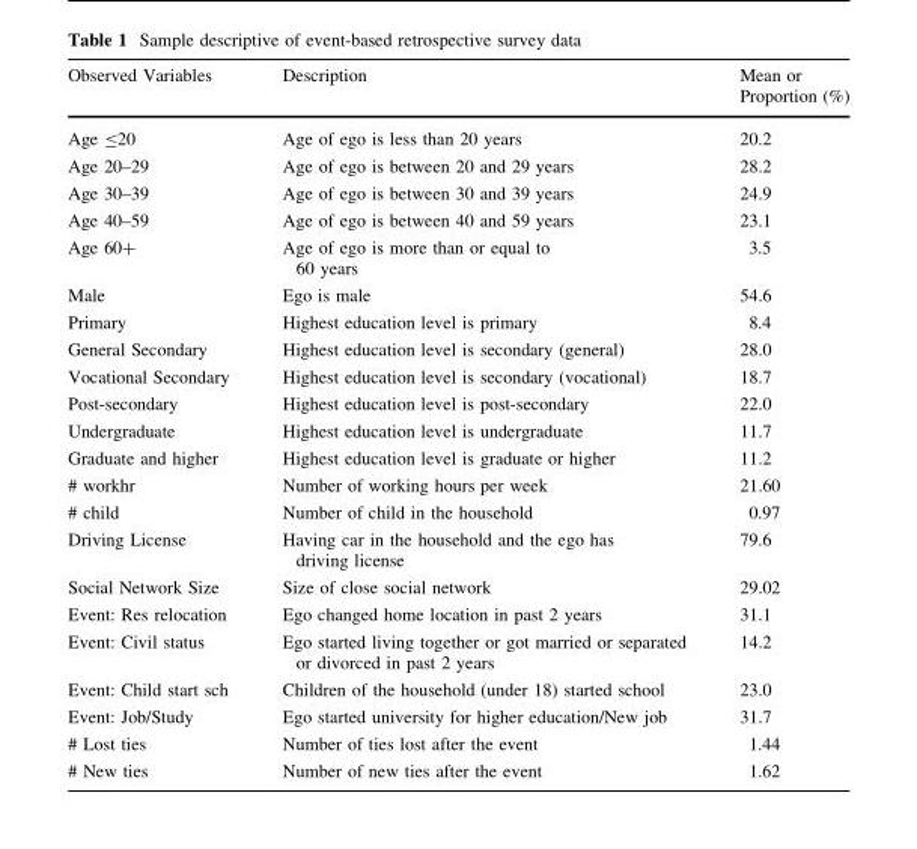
<table><thead><tr><td>Observed Variables</td><td>Description</td><td>Mean or Proportion (%)</td></tr></thead><tbody><tr><td>Age ≤20</td><td>Age of ego is less than 20 years</td><td>20.2</td></tr><tr><td>Age 20–29</td><td>Age of ego is between 20 and 29 years</td><td>28.2</td></tr><tr><td>Age 30–39</td><td>Age of ego is between 30 and 39 years</td><td>24.9</td></tr><tr><td>Age 40–59</td><td>Age of ego is between 40 and 59 years</td><td>23.1</td></tr><tr><td>Age 60+</td><td>Age of ego is more than or equal to 60 years</td><td>3.5</td></tr><tr><td>Male</td><td>Ego is male</td><td>54.6</td></tr><tr><td>Primary</td><td>Highest education level is primary</td><td>8.4</td></tr><tr><td>General Secondary</td><td>Highest education level is secondary (general)</td><td>28.0</td></tr><tr><td>Vocational Secondary</td><td>Highest education level is secondary (vocational)</td><td>18.7</td></tr><tr><td>Post-secondary</td><td>Highest education level is post-secondary</td><td>22.0</td></tr><tr><td>Undergraduate</td><td>Highest education level is undergraduate</td><td>11.7</td></tr><tr><td>Graduate and higher</td><td>Highest education level is graduate or higher</td><td>11.2</td></tr><tr><td># workhr</td><td>Number of working hours per week</td><td>21.60</td></tr><tr><td># child</td><td>Number of child in the household</td><td>0.97</td></tr><tr><td>Driving License</td><td>Having car in the household and the ego has driving license</td><td>79.6</td></tr><tr><td>Social Network Size</td><td>Size of close social network</td><td>29.02</td></tr><tr><td>Event: Res relocation</td><td>Ego changed home location in past 2 years</td><td>31.1</td></tr><tr><td>Event: Civil status</td><td>Ego started living together or got married or separated or divorced in past 2 years</td><td>14.2</td></tr><tr><td>Event: Child start sch</td><td>Children of the household (under 18) started school</td><td>23.0</td></tr><tr><td>Event: Job/Study</td><td>Ego started university for higher education/New job</td><td>31.7</td></tr><tr><td># Lost ties</td><td>Number of ties lost after the event</td><td>1.44</td></tr><tr><td># New ties</td><td>Number of new ties after the event</td><td>1.62</td></tr></tbody></table>